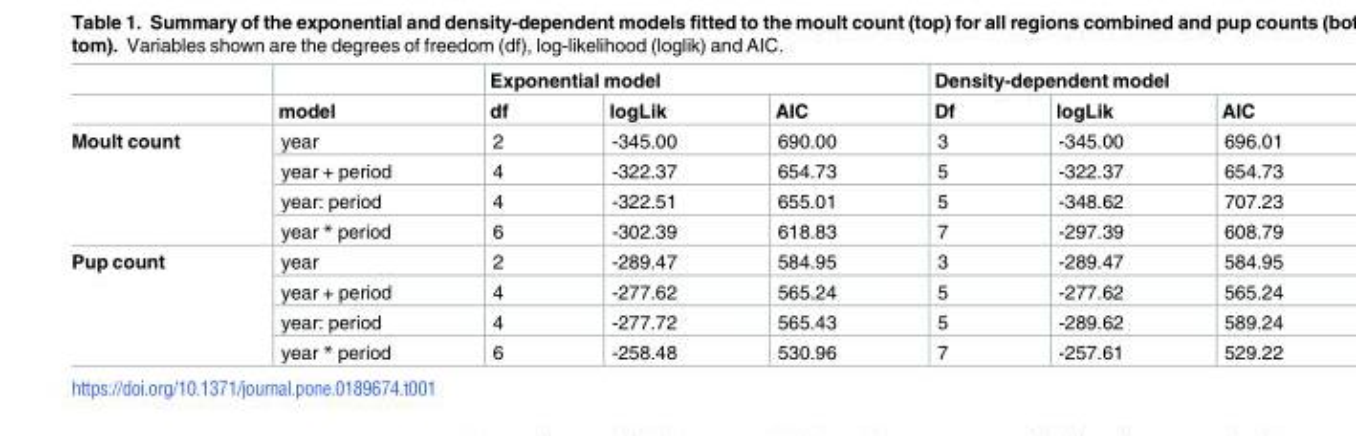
<table><thead><tr><td rowspan="2"></td><td rowspan="2">model</td><td colspan="3">Exponential model</td><td colspan="3">Density-dependent model</td></tr><tr><td>df</td><td>logLik</td><td>AIC</td><td>Df</td><td>logLik</td><td>AIC</td></tr></thead><tbody><tr><td rowspan="4">Moult count</td><td>year</td><td>2</td><td>-345.00</td><td>690.00</td><td>3</td><td>-345.00</td><td>696.01</td></tr><tr><td>year + period</td><td>4</td><td>-322.37</td><td>654.73</td><td>5</td><td>-322.37</td><td>654.73</td></tr><tr><td>year: period</td><td>4</td><td>-322.51</td><td>655.01</td><td>5</td><td>-348.62</td><td>707.23</td></tr><tr><td>year * period</td><td>6</td><td>-302.39</td><td>618.83</td><td>7</td><td>-297.39</td><td>608.79</td></tr><tr><td rowspan="4">Pup count</td><td>year</td><td>2</td><td>-289.47</td><td>584.95</td><td>3</td><td>-289.47</td><td>584.95</td></tr><tr><td>year + period</td><td>4</td><td>-277.62</td><td>565.24</td><td>5</td><td>-277.62</td><td>565.24</td></tr><tr><td>year: period</td><td>4</td><td>-277.72</td><td>565.43</td><td>5</td><td>-289.62</td><td>589.24</td></tr><tr><td>year * period</td><td>6</td><td>-258.48</td><td>530.96</td><td>7</td><td>-257.61</td><td>529.22</td></tr></tbody></table>